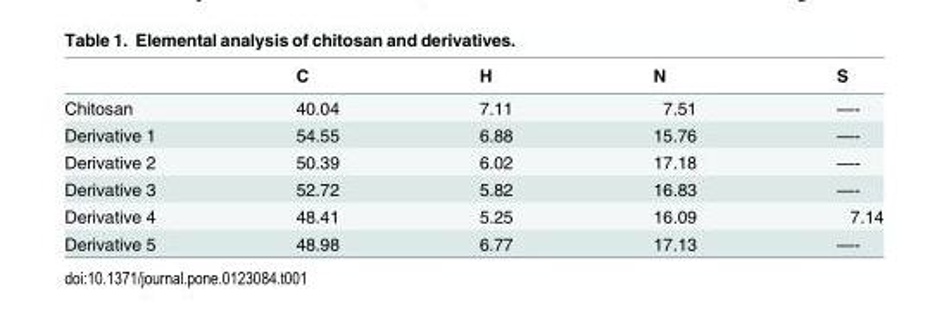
<table><thead><tr><td></td><td>C</td><td>H</td><td>N</td><td>S</td></tr></thead><tbody><tr><td>Chitosan</td><td>40.04</td><td>7.11</td><td>7.51</td><td>—-</td></tr><tr><td>Derivative 1</td><td>54.55</td><td>6.88</td><td>15.76</td><td>—-</td></tr><tr><td>Derivative 2</td><td>50.39</td><td>6.02</td><td>17.18</td><td>—-</td></tr><tr><td>Derivative 3</td><td>52.72</td><td>5.82</td><td>16.83</td><td>—-</td></tr><tr><td>Derivative 4</td><td>48.41</td><td>5.25</td><td>16.09</td><td>7.14</td></tr><tr><td>Derivative 5</td><td>48.98</td><td>6.77</td><td>17.13</td><td>—-</td></tr></tbody></table>